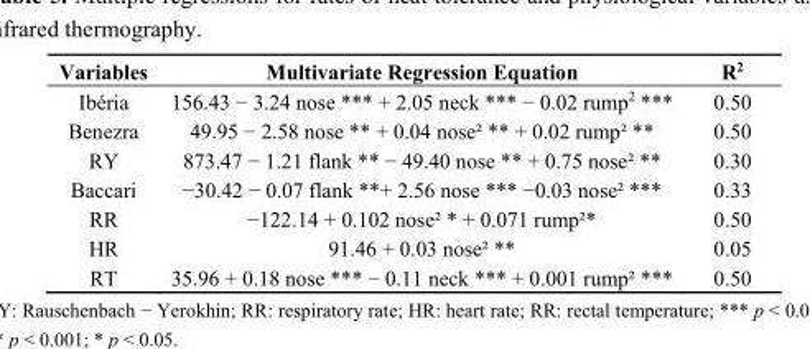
<table><thead><tr><td>Variables</td><td>Multivariate Regression Equation</td><td>R<sup>2</sup></td></tr></thead><tbody><tr><td>Ibéria</td><td>156.43 − 3.24 nose *** + 2.05 neck *** − 0.02 rump<sup>2</sup> ***</td><td>0.50</td></tr><tr><td>Benezra</td><td>49.95 − 2.58 nose ** + 0.04 nose² ** + 0.02 rump² **</td><td>0.50</td></tr><tr><td>RY</td><td>873.47 − 1.21 flank ** − 49.40 nose ** + 0.75 nose² **</td><td>0.30</td></tr><tr><td>Baccari</td><td>−30.42 − 0.07 flank **+ 2.56 nose *** −0.03 nose² ***</td><td>0.33</td></tr><tr><td>RR</td><td>−122.14 + 0.102 nose² * + 0.071 rump²*</td><td>0.50</td></tr><tr><td>HR</td><td>91.46 + 0.03 nose² **</td><td>0.05</td></tr><tr><td>RT</td><td>35.96 + 0.18 nose *** − 0.11 neck *** + 0.001 rump² ***</td><td>0.50</td></tr></tbody></table>